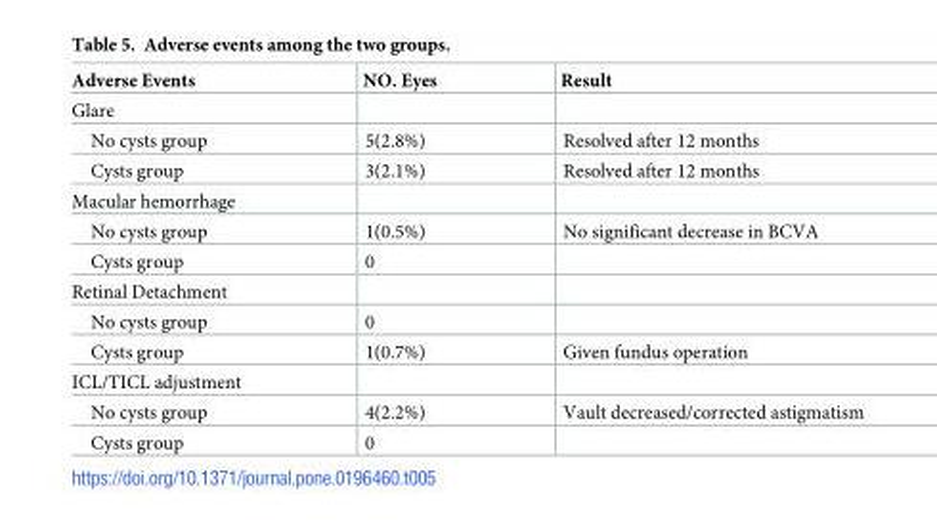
<table><thead><tr><td>Adverse Events</td><td>NO. Eyes</td><td>Result</td></tr></thead><tbody><tr><td colspan="3">Glare</td></tr><tr><td>No cysts group</td><td>5(2.8%)</td><td>Resolved after 12 months</td></tr><tr><td>Cysts group</td><td>3(2.1%)</td><td>Resolved after 12 months</td></tr><tr><td colspan="3">Macular hemorrhage</td></tr><tr><td>No cysts group</td><td>1(0.5%)</td><td>No significant decrease in BCVA</td></tr><tr><td>Cysts group</td><td>0</td><td></td></tr><tr><td colspan="3">Retinal Detachment</td></tr><tr><td>No cysts group</td><td>0</td><td></td></tr><tr><td>Cysts group</td><td>1(0.7%)</td><td>Given fundus operation</td></tr><tr><td colspan="3">ICL/TICL adjustment</td></tr><tr><td>No cysts group</td><td>4(2.2%)</td><td>Vault decreased/corrected astigmatism</td></tr><tr><td>Cysts group</td><td>0</td><td></td></tr></tbody></table>